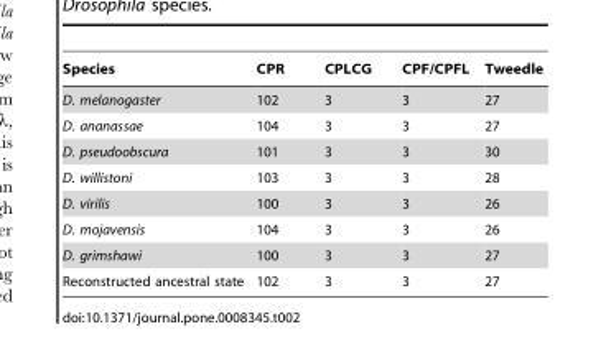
<table><thead><tr><td>Species</td><td>CPR</td><td>CPLCG</td><td>CPF/CPFL</td><td>Tweedle</td></tr></thead><tbody><tr><td>D. melanogaster</td><td>102</td><td>3</td><td>3</td><td>27</td></tr><tr><td>D. ananassae</td><td>104</td><td>3</td><td>3</td><td>27</td></tr><tr><td>D. pseudoobscura</td><td>101</td><td>3</td><td>3</td><td>30</td></tr><tr><td>D. willistoni</td><td>103</td><td>3</td><td>3</td><td>28</td></tr><tr><td>D. virilis</td><td>100</td><td>3</td><td>3</td><td>26</td></tr><tr><td>D. mojavensis</td><td>104</td><td>3</td><td>3</td><td>26</td></tr><tr><td>D. grimshawi</td><td>100</td><td>3</td><td>3</td><td>27</td></tr><tr><td>Reconstructed ancestral state</td><td>102</td><td>3</td><td>3</td><td>27</td></tr></tbody></table>